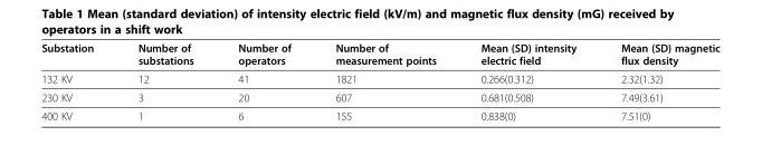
<table><thead><tr><td>Substation</td><td>Number of substations</td><td>Number of operators</td><td>Number of measurement points</td><td>Mean (SD) intensity electric field</td><td>Mean (SD) magnetic flux density</td></tr></thead><tbody><tr><td>132 KV</td><td>12</td><td>41</td><td>1821</td><td>0.266(0.312)</td><td>2.32(1.32)</td></tr><tr><td>230 KV</td><td>3</td><td>20</td><td>607</td><td>0.681(0.508)</td><td>7.49(3.61)</td></tr><tr><td>400 KV</td><td>1</td><td>6</td><td>155</td><td>0.838(0)</td><td>7.51(0)</td></tr></tbody></table>